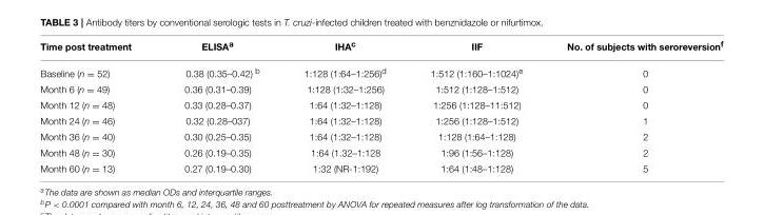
<table><thead><tr><td>Time post treatment</td><td>ELISA<sup>a</sup></td><td>IHA<sup>c</sup></td><td>IIF</td><td>No. of subjects with seroreversion<sup>f</sup></td></tr></thead><tbody><tr><td>Baseline (n = 52)</td><td>0.38 (0.35–0.42) <sup>b</sup></td><td>1:128 (1:64–1:256)<sup>d</sup></td><td>1:512 (1:160–1:1024)<sup>e</sup></td><td>0</td></tr><tr><td>Month 6 (n = 49)</td><td>0.36 (0.31–0.39)</td><td>1:128 (1:32–1:256)</td><td>1:512 (1:128–1:512)</td><td>0</td></tr><tr><td>Month 12 (n = 48)</td><td>0.33 (0.28–0.37)</td><td>1:64 (1:32–1:128)</td><td>1:256 (1:128–11:512)</td><td>0</td></tr><tr><td>Month 24 (n = 46)</td><td>0.32 (0.28–037)</td><td>1:64 (1:32–1:128)</td><td>1:256 (1:128–1:512)</td><td>1</td></tr><tr><td>Month 36 (n = 40)</td><td>0.30 (0.25–0.35)</td><td>1:64 (1:32–1:128)</td><td>1:128 (1:64–1:128)</td><td>2</td></tr><tr><td>Month 48 (n = 30)</td><td>0.26 (0.19–0.35)</td><td>1:64 (1.32–1:128</td><td>1:96 (1:56–1:128)</td><td>2</td></tr><tr><td>Month 60 (n = 13)</td><td>0.27 (0.19–0.30)</td><td>1:32 (NR-1:192)</td><td>1:64 (1:48–1:128)</td><td>5</td></tr></tbody></table>